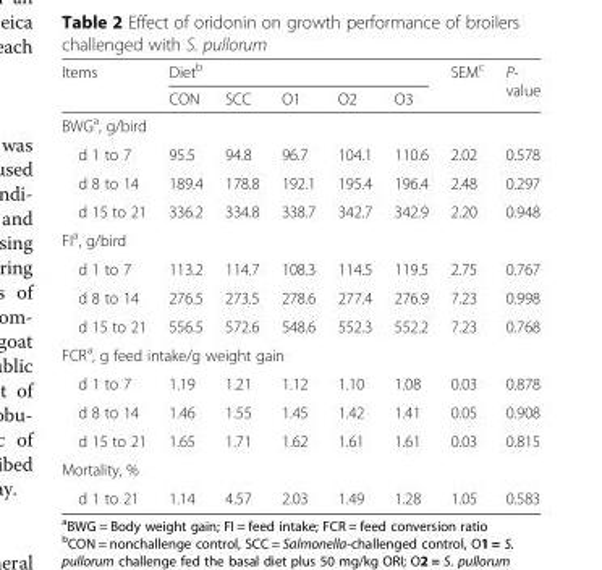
<table><thead><tr><td rowspan="2">Items</td><td colspan="5">Diet<sup>b</sup></td><td rowspan="2">SEM<sup>c</sup></td><td rowspan="2">P- value</td></tr><tr><td>CON</td><td>SCC</td><td>O1</td><td>O2</td><td>O3</td></tr></thead><tbody><tr><td colspan="8">BWG<sup>a</sup>, g/bird</td></tr><tr><td>d 1 to 7</td><td>95.5</td><td>94.8</td><td>96.7</td><td>104.1</td><td>110.6</td><td>2.02</td><td>0.578</td></tr><tr><td>d 8 to 14</td><td>189.4</td><td>178.8</td><td>192.1</td><td>195.4</td><td>196.4</td><td>2.48</td><td>0.297</td></tr><tr><td>d 15 to 21</td><td>336.2</td><td>334.8</td><td>338.7</td><td>342.7</td><td>342.9</td><td>2.20</td><td>0.948</td></tr><tr><td colspan="8">FI<sup>a</sup>, g/bird</td></tr><tr><td>d 1 to 7</td><td>113.2</td><td>114.7</td><td>108.3</td><td>114.5</td><td>119.5</td><td>2.75</td><td>0.767</td></tr><tr><td>d 8 to 14</td><td>276.5</td><td>273.5</td><td>278.6</td><td>277.4</td><td>276.9</td><td>7.23</td><td>0.998</td></tr><tr><td>d 15 to 21</td><td>556.5</td><td>572.6</td><td>548.6</td><td>552.3</td><td>552.2</td><td>7.23</td><td>0.768</td></tr><tr><td colspan="8">FCR<sup>a</sup>, g feed intake/g weight gain</td></tr><tr><td>d 1 to 7</td><td>1.19</td><td>1.21</td><td>1.12</td><td>1.10</td><td>1.08</td><td>0.03</td><td>0.878</td></tr><tr><td>d 8 to 14</td><td>1.46</td><td>1.55</td><td>1.45</td><td>1.42</td><td>1.41</td><td>0.05</td><td>0.908</td></tr><tr><td>d 15 to 21</td><td>1.65</td><td>1.71</td><td>1.62</td><td>1.61</td><td>1.61</td><td>0.03</td><td>0.815</td></tr><tr><td colspan="8">Mortality, %</td></tr><tr><td>d 1 to 21</td><td>1.14</td><td>4.57</td><td>2.03</td><td>1.49</td><td>1.28</td><td>1.05</td><td>0.583</td></tr></tbody></table>